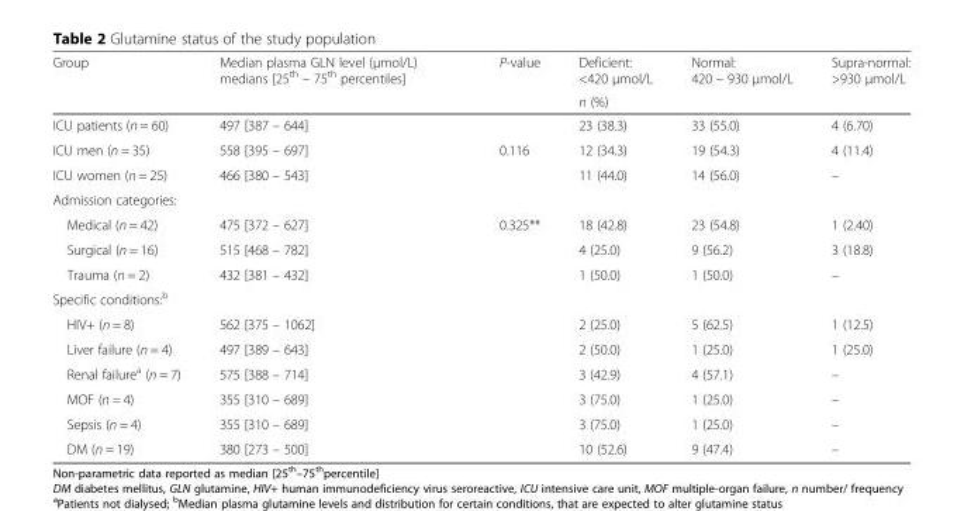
<table><thead><tr><td rowspan="2">Group</td><td rowspan="2">Median plasma GLN level (μmol/L) medians [25<sup>th</sup> – 75<sup>th</sup> percentiles]</td><td rowspan="2">P-value</td><td>Deficient: &lt;420 μmol/L</td><td>Normal: 420 – 930 μmol/L</td><td>Supra-normal: &gt;930 μmol/L</td></tr><tr><td colspan="3">n (%)</td></tr></thead><tbody><tr><td>ICU patients (n = 60)</td><td>497 [387 – 644]</td><td></td><td>23 (38.3)</td><td>33 (55.0)</td><td>4 (6.70)</td></tr><tr><td>ICU men (n = 35)</td><td>558 [395 – 697]</td><td>0.116</td><td>12 (34.3)</td><td>19 (54.3)</td><td>4 (11.4)</td></tr><tr><td>ICU women (n = 25)</td><td>466 [380 – 543]</td><td></td><td>11 (44.0)</td><td>14 (56.0)</td><td>–</td></tr><tr><td colspan="6">Admission categories:</td></tr><tr><td>Medical (n = 42)</td><td>475 [372 – 627]</td><td>0.325**</td><td>18 (42.8)</td><td>23 (54.8)</td><td>1 (2.40)</td></tr><tr><td>Surgical (n = 16)</td><td>515 [468 – 782]</td><td></td><td>4 (25.0)</td><td>9 (56.2)</td><td>3 (18.8)</td></tr><tr><td>Trauma (n = 2)</td><td>432 [381 – 432]</td><td></td><td>1 (50.0)</td><td>1 (50.0)</td><td>–</td></tr><tr><td colspan="6">Specific conditions:<sup>b</sup></td></tr><tr><td>HIV+ (n = 8)</td><td>562 [375 – 1062]</td><td></td><td>2 (25.0)</td><td>5 (62.5)</td><td>1 (12.5)</td></tr><tr><td>Liver failure (n = 4)</td><td>497 [389 – 643]</td><td></td><td>2 (50.0)</td><td>1 (25.0)</td><td>1 (25.0)</td></tr><tr><td>Renal failure<sup>a</sup> (n = 7)</td><td>575 [388 – 714]</td><td></td><td>3 (42.9)</td><td>4 (57.1)</td><td>–</td></tr><tr><td>MOF (n = 4)</td><td>355 [310 – 689]</td><td></td><td>3 (75.0)</td><td>1 (25.0)</td><td>–</td></tr><tr><td>Sepsis (n = 4)</td><td>355 [310 – 689]</td><td></td><td>3 (75.0)</td><td>1 (25.0)</td><td>–</td></tr><tr><td>DM (n = 19)</td><td>380 [273 – 500]</td><td></td><td>10 (52.6)</td><td>9 (47.4)</td><td>–</td></tr></tbody></table>